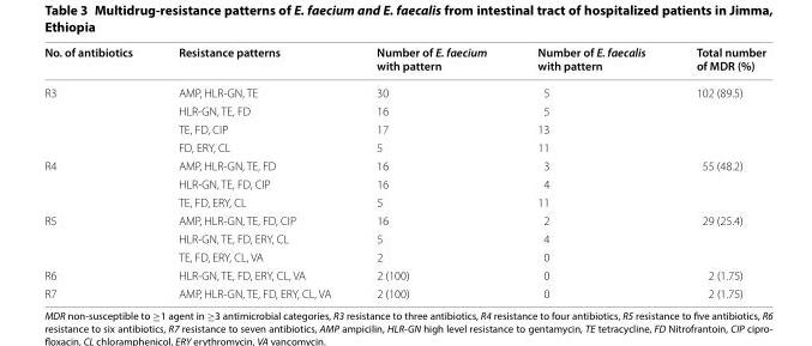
<table><thead><tr><td>No. of antibiotics</td><td>Resistance patterns</td><td>Number of E. faecium with pattern</td><td>Number of E. faecalis with pattern</td><td>Total number of MDR (%)</td></tr></thead><tbody><tr><td rowspan="4">R3</td><td>AMP, HLR-GN, TE</td><td>30</td><td>5</td><td rowspan="4">102 (89.5)</td></tr><tr><td>HLR-GN, TE, FD</td><td>16</td><td>5</td></tr><tr><td>TE, FD, CIP</td><td>17</td><td>13</td></tr><tr><td>FD, ERY, CL</td><td>5</td><td>11</td></tr><tr><td rowspan="3">R4</td><td>AMP, HLR-GN, TE, FD</td><td>16</td><td>3</td><td rowspan="3">55 (48.2)</td></tr><tr><td>HLR-GN, TE, FD, CIP</td><td>16</td><td>4</td></tr><tr><td>TE, FD, ERY, CL</td><td>5</td><td>11</td></tr><tr><td rowspan="3">R5</td><td>AMP, HLR-GN, TE, FD, CIP</td><td>16</td><td>2</td><td rowspan="3">29 (25.4)</td></tr><tr><td>HLR-GN, TE, FD, ERY, CL</td><td>5</td><td>4</td></tr><tr><td>TE, FD, ERY, CL, VA</td><td>2</td><td>0</td></tr><tr><td>R6</td><td>HLR-GN, TE, FD, ERY, CL, VA</td><td>2 (100)</td><td>0</td><td>2 (1.75)</td></tr><tr><td>R7</td><td>AMP, HLR-GN, TE, FD, ERY, CL, VA</td><td>2 (100)</td><td>0</td><td>2 (1.75)</td></tr></tbody></table>